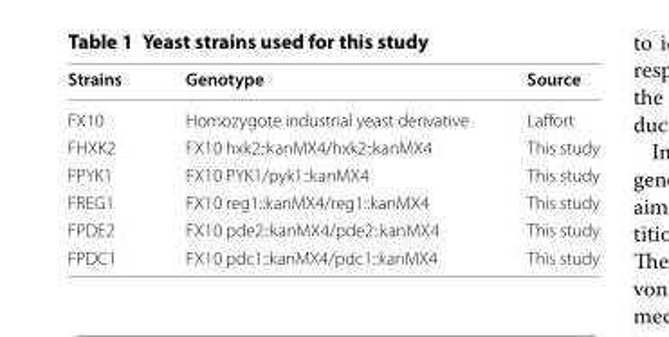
<table><thead><tr><td>Strains</td><td>Genotype</td><td>Source</td></tr></thead><tbody><tr><td>FX10</td><td>Homozygote industrial yeast derivative</td><td>Laffort</td></tr><tr><td>FHXK2</td><td>FX10 hxk2::kanMX4/hxk2::kanMX4</td><td>This study</td></tr><tr><td>FPYK1</td><td>FX10 PYK1/pyk1::kanMX4</td><td>This study</td></tr><tr><td>FREG1</td><td>FX10 reg1::kanMX4/reg1::kanMX4</td><td>This study</td></tr><tr><td>FPDE2</td><td>FX10 pde2::kanMX4/pde2::kanMX4</td><td>This study</td></tr><tr><td>FPDC1</td><td>FX10 pdc1::kanMX4/pdc1::kanMX4</td><td>This study</td></tr></tbody></table>